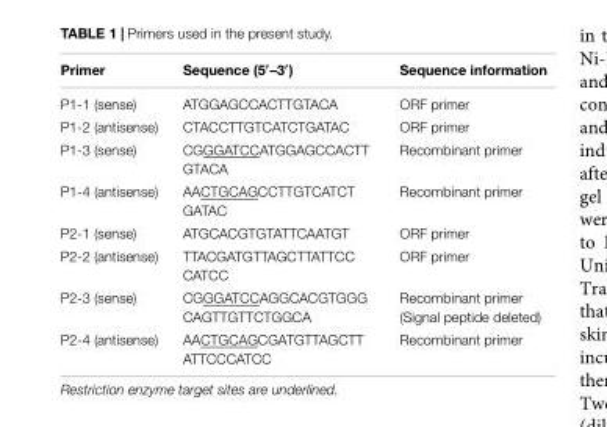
<table><thead><tr><td>Primer</td><td>Sequence (5′–3′)</td><td>Sequence information</td></tr></thead><tbody><tr><td>P1-1 (sense)</td><td>ATGGAGCCACTTGTACA</td><td>ORF primer</td></tr><tr><td>P1-2 (antisense)</td><td>CTACCTTGTCATCTGATAC</td><td>ORF primer</td></tr><tr><td>P1-3 (sense)</td><td>CGGGATCCATGGAGCCACTT GTACA</td><td>Recombinant primer</td></tr><tr><td>P1-4 (antisense)</td><td>AACTGCAGCCTTGTCATCT GATAC</td><td>Recombinant primer</td></tr><tr><td>P2-1 (sense)</td><td>ATGCACGTGTATTCAATGT</td><td>ORF primer</td></tr><tr><td>P2-2 (antisense)</td><td>TTACGATGTTAGCTTATTCC CATCC</td><td>ORF primer</td></tr><tr><td>P2-3 (sense)</td><td>CGGGATCCAGGCACGTGGG CAGTTGTTCTGGCA</td><td>Recombinant primer (Signal peptide deleted)</td></tr><tr><td>P2-4 (antisense)</td><td>AACTGCAGCGATGTTAGCTT ATTCCCATCC</td><td>Recombinant primer</td></tr></tbody></table>